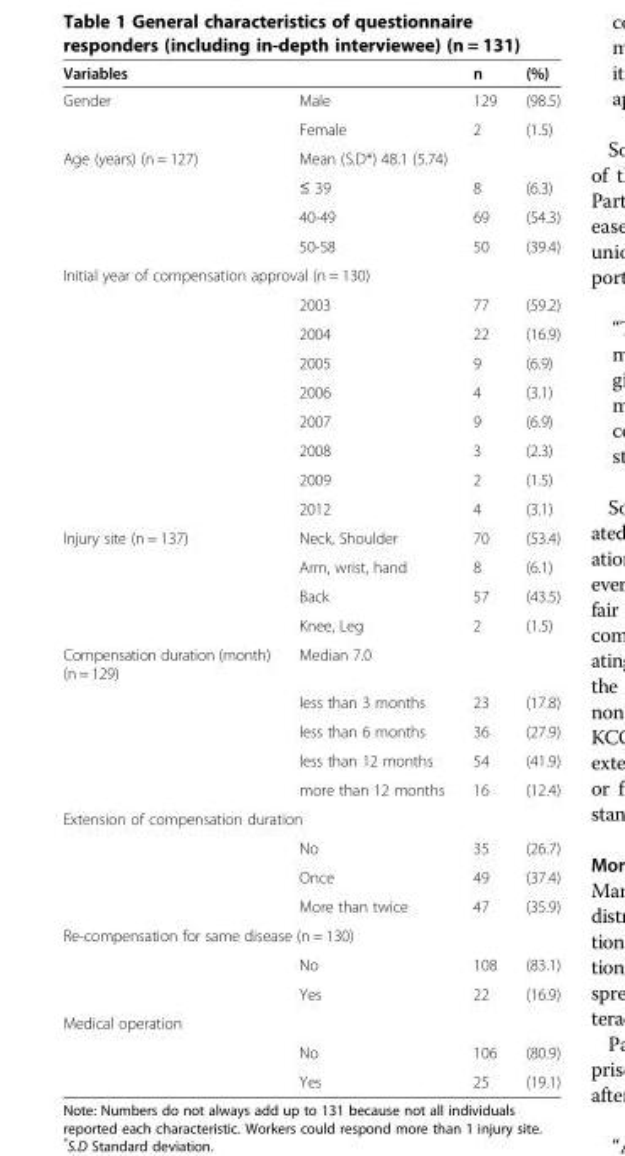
<table><thead><tr><td>Variables</td><td></td><td>n</td><td>(%)</td></tr></thead><tbody><tr><td rowspan="2">Gender</td><td>Male</td><td>129</td><td>(98.5)</td></tr><tr><td>Female</td><td>2</td><td>(1.5)</td></tr><tr><td rowspan="4">Age (years) (n = 127)</td><td colspan="3">Mean (S.D*) 48.1 (5.74)</td></tr><tr><td>≤ 39</td><td>8</td><td>(6.3)</td></tr><tr><td>40-49</td><td>69</td><td>(54.3)</td></tr><tr><td>50-58</td><td>50</td><td>(39.4)</td></tr><tr><td colspan="4">Initial year of compensation approval (n = 130)</td></tr><tr><td></td><td>2003</td><td>77</td><td>(59.2)</td></tr><tr><td></td><td>2004</td><td>22</td><td>(16.9)</td></tr><tr><td></td><td>2005</td><td>9</td><td>(6.9)</td></tr><tr><td></td><td>2006</td><td>4</td><td>(3.1)</td></tr><tr><td></td><td>2007</td><td>9</td><td>(6.9)</td></tr><tr><td></td><td>2008</td><td>3</td><td>(2.3)</td></tr><tr><td></td><td>2009</td><td>2</td><td>(1.5)</td></tr><tr><td></td><td>2012</td><td>4</td><td>(3.1)</td></tr><tr><td rowspan="4">Injury site (n = 137)</td><td>Neck, Shoulder</td><td>70</td><td>(53.4)</td></tr><tr><td>Arm, wrist, hand</td><td>8</td><td>(6.1)</td></tr><tr><td>Back</td><td>57</td><td>(43.5)</td></tr><tr><td>Knee, Leg</td><td>2</td><td>(1.5)</td></tr><tr><td rowspan="5">Compensation duration (month) (n = 129)</td><td>Median 7.0</td><td></td><td></td></tr><tr><td>less than 3 months</td><td>23</td><td>(17.8)</td></tr><tr><td>less than 6 months</td><td>36</td><td>(27.9)</td></tr><tr><td>less than 12 months</td><td>54</td><td>(41.9)</td></tr><tr><td>more than 12 months</td><td>16</td><td>(12.4)</td></tr><tr><td colspan="4">Extension of compensation duration</td></tr><tr><td></td><td>No</td><td>35</td><td>(26.7)</td></tr><tr><td></td><td>Once</td><td>49</td><td>(37.4)</td></tr><tr><td></td><td>More than twice</td><td>47</td><td>(35.9)</td></tr><tr><td colspan="4">Re-compensation for same disease (n = 130)</td></tr><tr><td></td><td>No</td><td>108</td><td>(83.1)</td></tr><tr><td></td><td>Yes</td><td>22</td><td>(16.9)</td></tr><tr><td colspan="4">Medical operation</td></tr><tr><td></td><td>No</td><td>106</td><td>(80.9)</td></tr><tr><td></td><td>Yes</td><td>25</td><td>(19.1)</td></tr></tbody></table>